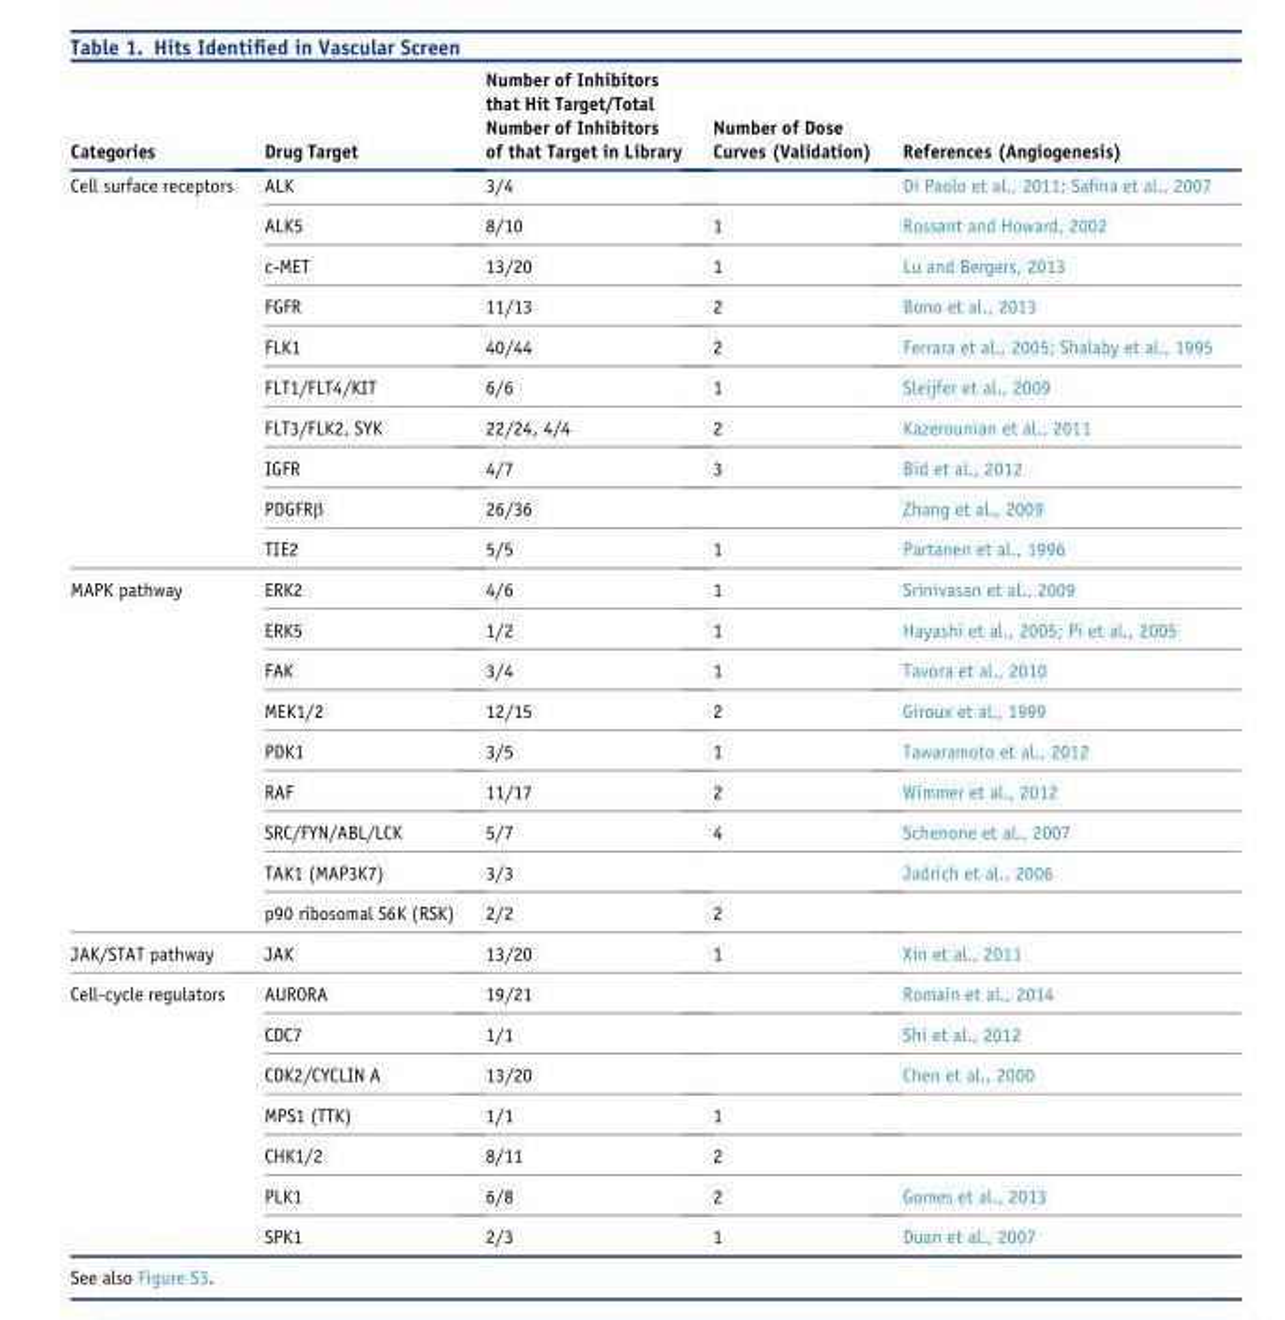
<table><thead><tr><td>Categories</td><td>Drug Target</td><td>Number of Inhibitors that Hit Target/Total Number of Inhibitors of that Target in Library</td><td>Number of Dose Curves (Validation)</td><td>References (Angiogenesis)</td></tr></thead><tbody><tr><td rowspan="10">Cell surface receptors</td><td>ALK</td><td>3/4</td><td></td><td>Di Paolo et al., 2011; Safina et al., 2007</td></tr><tr><td>ALK5</td><td>8/10</td><td>1</td><td>Rossant and Howard, 2002</td></tr><tr><td>c-MET</td><td>13/20</td><td>1</td><td>Lu and Bergers, 2013</td></tr><tr><td>FGFR</td><td>11/13</td><td>2</td><td>Bono et al., 2013</td></tr><tr><td>FLK1</td><td>40/44</td><td>2</td><td>Ferrara et al., 2005; Shalaby et al., 1995</td></tr><tr><td>FLT1/FLT4/KIT</td><td>6/6</td><td>1</td><td>Sleijfer et al., 2009</td></tr><tr><td>FLT3/FLK2, SYK</td><td>22/24, 4/4</td><td>2</td><td>Kazerounian et al., 2011</td></tr><tr><td>IGFR</td><td>4/7</td><td>3</td><td>Bid et al., 2012</td></tr><tr><td>PDGFRβ</td><td>26/36</td><td></td><td>Zhang et al., 2009</td></tr><tr><td>TIE2</td><td>5/5</td><td>1</td><td>Partanen et al., 1996</td></tr><tr><td rowspan="9">MAPK pathway</td><td>ERK2</td><td>4/6</td><td>1</td><td>Srinivasan et al., 2009</td></tr><tr><td>ERK5</td><td>1/2</td><td>1</td><td>Hayashi et al., 2005; Pi et al., 2005</td></tr><tr><td>FAK</td><td>3/4</td><td>1</td><td>Tavora et al., 2010</td></tr><tr><td>MEK1/2</td><td>12/15</td><td>2</td><td>Giroux et al., 1999</td></tr><tr><td>PDK1</td><td>3/5</td><td>1</td><td>Tawaramoto et al., 2012</td></tr><tr><td>RAF</td><td>11/17</td><td>2</td><td>Wimmer et al., 2012</td></tr><tr><td>SRC/FYN/ABL/LCK</td><td>5/7</td><td>4</td><td>Schenone et al., 2007</td></tr><tr><td>TAK1 (MAP3K7)</td><td>3/3</td><td></td><td>Jadrich et al., 2006</td></tr><tr><td>p90 ribosomal S6K (RSK)</td><td>2/2</td><td>2</td><td></td></tr><tr><td>JAK/STAT pathway</td><td>JAK</td><td>13/20</td><td>1</td><td>Xin et al., 2011</td></tr><tr><td rowspan="7">Cell-cycle regulators</td><td>AURORA</td><td>19/21</td><td></td><td>Romain et al., 2014</td></tr><tr><td>CDC7</td><td>1/1</td><td></td><td>Shi et al., 2012</td></tr><tr><td>CDK2/CYCLIN A</td><td>13/20</td><td></td><td>Chen et al., 2000</td></tr><tr><td>MPS1 (TTK)</td><td>1/1</td><td>1</td><td></td></tr><tr><td>CHK1/2</td><td>8/11</td><td>2</td><td></td></tr><tr><td>PLK1</td><td>6/8</td><td>2</td><td>Gomes et al., 2013</td></tr><tr><td>SPK1</td><td>2/3</td><td>1</td><td>Duan et al., 2007</td></tr></tbody></table>